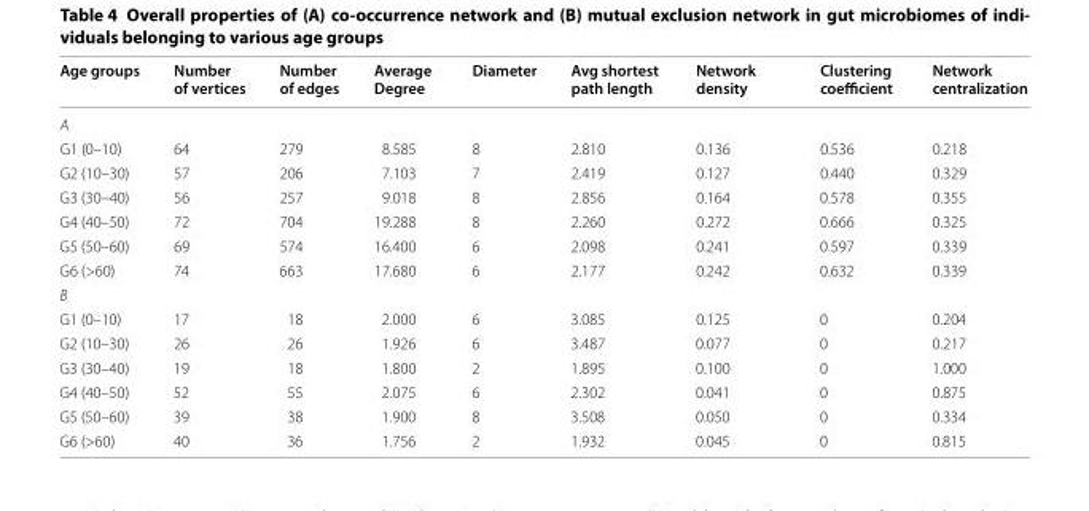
<table><thead><tr><td>Age groups</td><td>Number of vertices</td><td>Number of edges</td><td>Average Degree</td><td>Diameter</td><td>Avg shortest path length</td><td>Network density</td><td>Clustering coefficient</td><td>Network centralization</td></tr></thead><tbody><tr><td colspan="9">A</td></tr><tr><td>G1 (0–10)</td><td>64</td><td>279</td><td>8.585</td><td>8</td><td>2.810</td><td>0.136</td><td>0.536</td><td>0.218</td></tr><tr><td>G2 (10–30)</td><td>57</td><td>206</td><td>7.103</td><td>7</td><td>2.419</td><td>0.127</td><td>0.440</td><td>0.329</td></tr><tr><td>G3 (30–40)</td><td>56</td><td>257</td><td>9.018</td><td>8</td><td>2.856</td><td>0.164</td><td>0.578</td><td>0.355</td></tr><tr><td>G4 (40–50)</td><td>72</td><td>704</td><td>19.288</td><td>8</td><td>2.260</td><td>0.272</td><td>0.666</td><td>0.325</td></tr><tr><td>G5 (50–60)</td><td>69</td><td>574</td><td>16.400</td><td>6</td><td>2.098</td><td>0.241</td><td>0.597</td><td>0.339</td></tr><tr><td>G6 (&gt;60)</td><td>74</td><td>663</td><td>17.680</td><td>6</td><td>2.177</td><td>0.242</td><td>0.632</td><td>0.339</td></tr><tr><td colspan="9">B</td></tr><tr><td>G1 (0–10)</td><td>17</td><td>18</td><td>2.000</td><td>6</td><td>3.085</td><td>0.125</td><td>0</td><td>0.204</td></tr><tr><td>G2 (10–30)</td><td>26</td><td>26</td><td>1.926</td><td>6</td><td>3.487</td><td>0.077</td><td>0</td><td>0.217</td></tr><tr><td>G3 (30–40)</td><td>19</td><td>18</td><td>1.800</td><td>2</td><td>1.895</td><td>0.100</td><td>0</td><td>1.000</td></tr><tr><td>G4 (40–50)</td><td>52</td><td>55</td><td>2.075</td><td>6</td><td>2.302</td><td>0.041</td><td>0</td><td>0.875</td></tr><tr><td>G5 (50–60)</td><td>39</td><td>38</td><td>1.900</td><td>8</td><td>3.508</td><td>0.050</td><td>0</td><td>0.334</td></tr><tr><td>G6 (&gt;60)</td><td>40</td><td>36</td><td>1.756</td><td>2</td><td>1.932</td><td>0.045</td><td>0</td><td>0.815</td></tr></tbody></table>